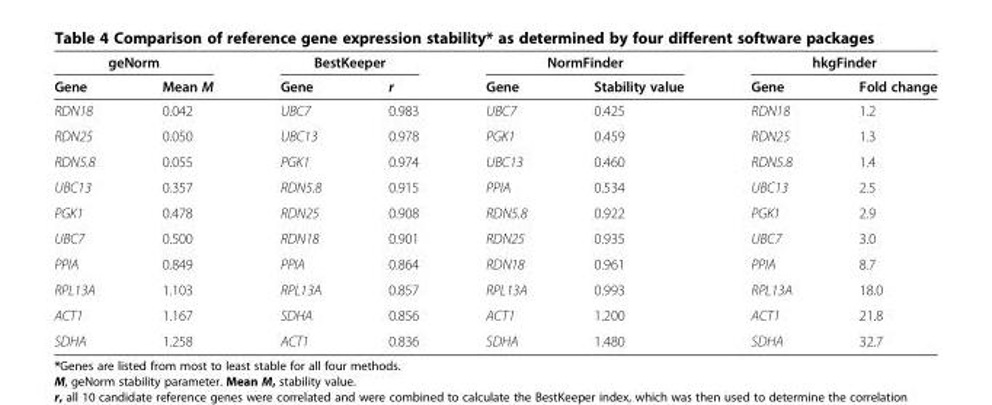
<table><thead><tr><td colspan="2">geNorm</td><td colspan="2">BestKeeper</td><td colspan="2">NormFinder</td><td colspan="2">hkgFinder</td></tr><tr><td>Gene</td><td>Mean M</td><td>Gene</td><td>r</td><td>Gene</td><td>Stability value</td><td>Gene</td><td>Fold change</td></tr></thead><tbody><tr><td>RDN18</td><td>0.042</td><td>UBC7</td><td>0.983</td><td>UBC7</td><td>0.425</td><td>RDN18</td><td>1.2</td></tr><tr><td>RDN25</td><td>0.050</td><td>UBC13</td><td>0.978</td><td>PGK1</td><td>0.459</td><td>RDN25</td><td>1.3</td></tr><tr><td>RDN5.8</td><td>0.055</td><td>PGK1</td><td>0.974</td><td>UBC13</td><td>0.460</td><td>RDN5.8</td><td>1.4</td></tr><tr><td>UBC13</td><td>0.357</td><td>RDN5.8</td><td>0.915</td><td>PPIA</td><td>0.534</td><td>UBC13</td><td>2.5</td></tr><tr><td>PGK1</td><td>0.478</td><td>RDN25</td><td>0.908</td><td>RDN5.8</td><td>0.922</td><td>PGK1</td><td>2.9</td></tr><tr><td>UBC7</td><td>0.500</td><td>RDN18</td><td>0.901</td><td>RDN25</td><td>0.935</td><td>UBC7</td><td>3.0</td></tr><tr><td>PPIA</td><td>0.849</td><td>PPIA</td><td>0.864</td><td>RDN18</td><td>0.961</td><td>PPIA</td><td>8.7</td></tr><tr><td>RPL13A</td><td>1.103</td><td>RPL13A</td><td>0.857</td><td>RPL13A</td><td>0.993</td><td>RPL13A</td><td>18.0</td></tr><tr><td>ACT1</td><td>1.167</td><td>SDHA</td><td>0.856</td><td>ACT1</td><td>1.200</td><td>ACT1</td><td>21.8</td></tr><tr><td>SDHA</td><td>1.258</td><td>ACT1</td><td>0.836</td><td>SDHA</td><td>1.480</td><td>SDHA</td><td>32.7</td></tr></tbody></table>